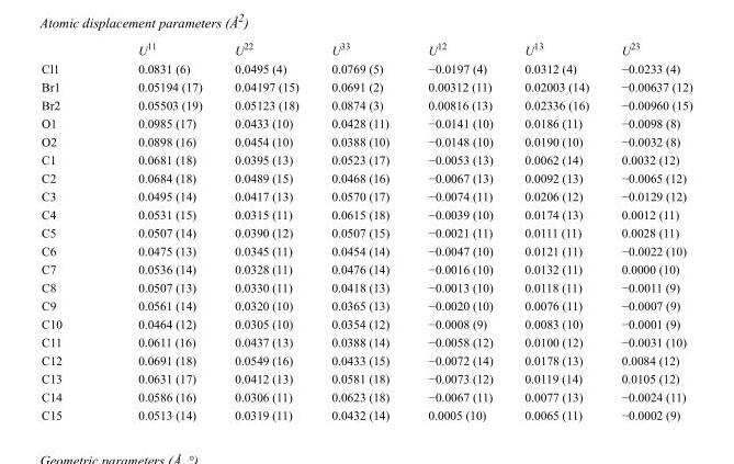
<table><thead><tr><td></td><td>U<sup>11</sup></td><td>U<sup>22</sup></td><td>U<sup>33</sup></td><td>U<sup>12</sup></td><td>U<sup>13</sup></td><td>U<sup>23</sup></td></tr></thead><tbody><tr><td>Cl1</td><td>0.0831 (6)</td><td>0.0495 (4)</td><td>0.0769 (5)</td><td>−0.0197 (4)</td><td>0.0312 (4)</td><td>−0.0233 (4)</td></tr><tr><td>Br1</td><td>0.05194 (17)</td><td>0.04197 (15)</td><td>0.0691 (2)</td><td>0.00312 (11)</td><td>0.02003 (14)</td><td>−0.00637 (12)</td></tr><tr><td>Br2</td><td>0.05503 (19)</td><td>0.05123 (18)</td><td>0.0874 (3)</td><td>0.00816 (13)</td><td>0.02336 (16)</td><td>−0.00960 (15)</td></tr><tr><td>O1</td><td>0.0985 (17)</td><td>0.0433 (10)</td><td>0.0428 (11)</td><td>−0.0141 (10)</td><td>0.0186 (11)</td><td>−0.0098 (8)</td></tr><tr><td>O2</td><td>0.0898 (16)</td><td>0.0454 (10)</td><td>0.0388 (10)</td><td>−0.0148 (10)</td><td>0.0190 (10)</td><td>−0.0032 (8)</td></tr><tr><td>C1</td><td>0.0681 (18)</td><td>0.0395 (13)</td><td>0.0523 (17)</td><td>−0.0053 (13)</td><td>0.0062 (14)</td><td>0.0032 (12)</td></tr><tr><td>C2</td><td>0.0684 (18)</td><td>0.0489 (15)</td><td>0.0468 (16)</td><td>−0.0067 (13)</td><td>0.0092 (13)</td><td>−0.0065 (12)</td></tr><tr><td>C3</td><td>0.0495 (14)</td><td>0.0417 (13)</td><td>0.0570 (17)</td><td>−0.0074 (11)</td><td>0.0206 (12)</td><td>−0.0129 (12)</td></tr><tr><td>C4</td><td>0.0531 (15)</td><td>0.0315 (11)</td><td>0.0615 (18)</td><td>−0.0039 (10)</td><td>0.0174 (13)</td><td>0.0012 (11)</td></tr><tr><td>C5</td><td>0.0507 (14)</td><td>0.0390 (12)</td><td>0.0507 (15)</td><td>−0.0021 (11)</td><td>0.0111 (11)</td><td>0.0028 (11)</td></tr><tr><td>C6</td><td>0.0475 (13)</td><td>0.0345 (11)</td><td>0.0454 (14)</td><td>−0.0047 (10)</td><td>0.0121 (11)</td><td>−0.0022 (10)</td></tr><tr><td>C7</td><td>0.0536 (14)</td><td>0.0328 (11)</td><td>0.0476 (14)</td><td>−0.0016 (10)</td><td>0.0132 (11)</td><td>0.0000 (10)</td></tr><tr><td>C8</td><td>0.0507 (13)</td><td>0.0330 (11)</td><td>0.0418 (13)</td><td>−0.0013 (10)</td><td>0.0118 (11)</td><td>−0.0011 (9)</td></tr><tr><td>C9</td><td>0.0561 (14)</td><td>0.0320 (10)</td><td>0.0365 (13)</td><td>−0.0020 (10)</td><td>0.0076 (11)</td><td>−0.0007 (9)</td></tr><tr><td>C10</td><td>0.0464 (12)</td><td>0.0305 (10)</td><td>0.0354 (12)</td><td>−0.0008 (9)</td><td>0.0083 (10)</td><td>−0.0001 (9)</td></tr><tr><td>C11</td><td>0.0611 (16)</td><td>0.0437 (13)</td><td>0.0388 (14)</td><td>−0.0058 (12)</td><td>0.0100 (12)</td><td>−0.0031 (10)</td></tr><tr><td>C12</td><td>0.0691 (18)</td><td>0.0549 (16)</td><td>0.0433 (15)</td><td>−0.0072 (14)</td><td>0.0178 (13)</td><td>0.0084 (12)</td></tr><tr><td>C13</td><td>0.0631 (17)</td><td>0.0412 (13)</td><td>0.0581 (18)</td><td>−0.0073 (12)</td><td>0.0119 (14)</td><td>0.0105 (12)</td></tr><tr><td>C14</td><td>0.0586 (16)</td><td>0.0306 (11)</td><td>0.0623 (18)</td><td>−0.0067 (11)</td><td>0.0077 (13)</td><td>−0.0024 (11)</td></tr><tr><td>C15</td><td>0.0513 (14)</td><td>0.0319 (11)</td><td>0.0432 (14)</td><td>0.0005 (10)</td><td>0.0065 (11)</td><td>−0.0002 (9)</td></tr></tbody></table>